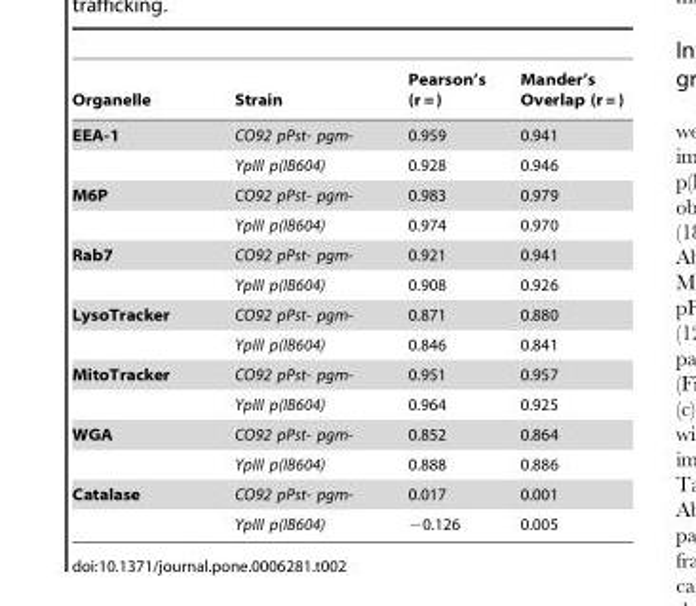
<table><thead><tr><td>Organelle</td><td>Strain</td><td>Pearson’s (r = )</td><td>Mander’s Overlap (r = )</td></tr></thead><tbody><tr><td rowspan="2">EEA-1</td><td>CO92 pPst- pgm-</td><td>0.959</td><td>0.941</td></tr><tr><td>YpIII p(IB604)</td><td>0.928</td><td>0.946</td></tr><tr><td rowspan="2">M6P</td><td>CO92 pPst- pgm-</td><td>0.983</td><td>0.979</td></tr><tr><td>YpIII p(IB604)</td><td>0.974</td><td>0.970</td></tr><tr><td rowspan="2">Rab7</td><td>CO92 pPst- pgm-</td><td>0.921</td><td>0.941</td></tr><tr><td>YpIII p(IB604)</td><td>0.908</td><td>0.926</td></tr><tr><td rowspan="2">LysoTracker</td><td>CO92 pPst- pgm-</td><td>0.871</td><td>0.880</td></tr><tr><td>YpIII p(IB604)</td><td>0.846</td><td>0.841</td></tr><tr><td rowspan="2">MitoTracker</td><td>CO92 pPst- pgm-</td><td>0.951</td><td>0.957</td></tr><tr><td>YpIII p(IB604)</td><td>0.964</td><td>0.925</td></tr><tr><td rowspan="2">WGA</td><td>CO92 pPst- pgm-</td><td>0.852</td><td>0.864</td></tr><tr><td>YpIII p(IB604)</td><td>0.888</td><td>0.886</td></tr><tr><td rowspan="2">Catalase</td><td>CO92 pPst- pgm-</td><td>0.017</td><td>0.001</td></tr><tr><td>YpIII p(IB604)</td><td>−0.126</td><td>0.005</td></tr></tbody></table>